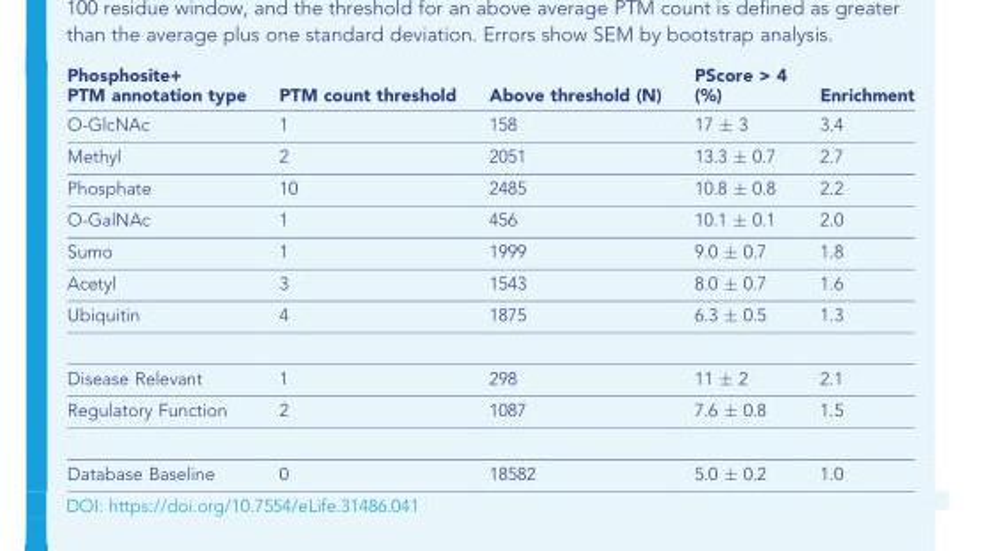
<table><thead><tr><td>Phosphosite+ PTM annotation type</td><td>PTM count threshold</td><td>Above threshold (N)</td><td>PScore &gt; 4 (%)</td><td>Enrichment</td></tr></thead><tbody><tr><td>O-GlcNAc</td><td>1</td><td>158</td><td>17 ± 3</td><td>3.4</td></tr><tr><td>Methyl</td><td>2</td><td>2051</td><td>13.3 ± 0.7</td><td>2.7</td></tr><tr><td>Phosphate</td><td>10</td><td>2485</td><td>10.8 ± 0.8</td><td>2.2</td></tr><tr><td>O-GalNAc</td><td>1</td><td>456</td><td>10.1 ± 0.1</td><td>2.0</td></tr><tr><td>Sumo</td><td>1</td><td>1999</td><td>9.0 ± 0.7</td><td>1.8</td></tr><tr><td>Acetyl</td><td>3</td><td>1543</td><td>8.0 ± 0.7</td><td>1.6</td></tr><tr><td>Ubiquitin</td><td>4</td><td>1875</td><td>6.3 ± 0.5</td><td>1.3</td></tr><tr><td>Disease Relevant</td><td>1</td><td>298</td><td>11 ± 2</td><td>2.1</td></tr><tr><td>Regulatory Function</td><td>2</td><td>1087</td><td>7.6 ± 0.8</td><td>1.5</td></tr><tr><td>Database Baseline</td><td>0</td><td>18582</td><td>5.0 ± 0.2</td><td>1.0</td></tr></tbody></table>